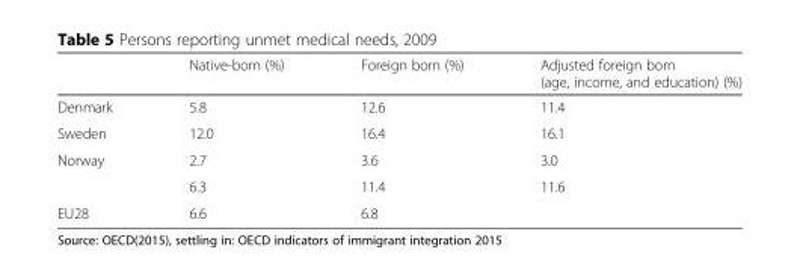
<table><thead><tr><td></td><td>Native-born (%)</td><td>Foreign born (%)</td><td>Adjusted foreign born (age, income, and education) (%)</td></tr></thead><tbody><tr><td>Denmark</td><td>5.8</td><td>12.6</td><td>11.4</td></tr><tr><td>Sweden</td><td>12.0</td><td>16.4</td><td>16.1</td></tr><tr><td rowspan="2">Norway</td><td>2.7</td><td>3.6</td><td>3.0</td></tr><tr><td>6.3</td><td>11.4</td><td>11.6</td></tr><tr><td>EU28</td><td>6.6</td><td>6.8</td><td></td></tr></tbody></table>